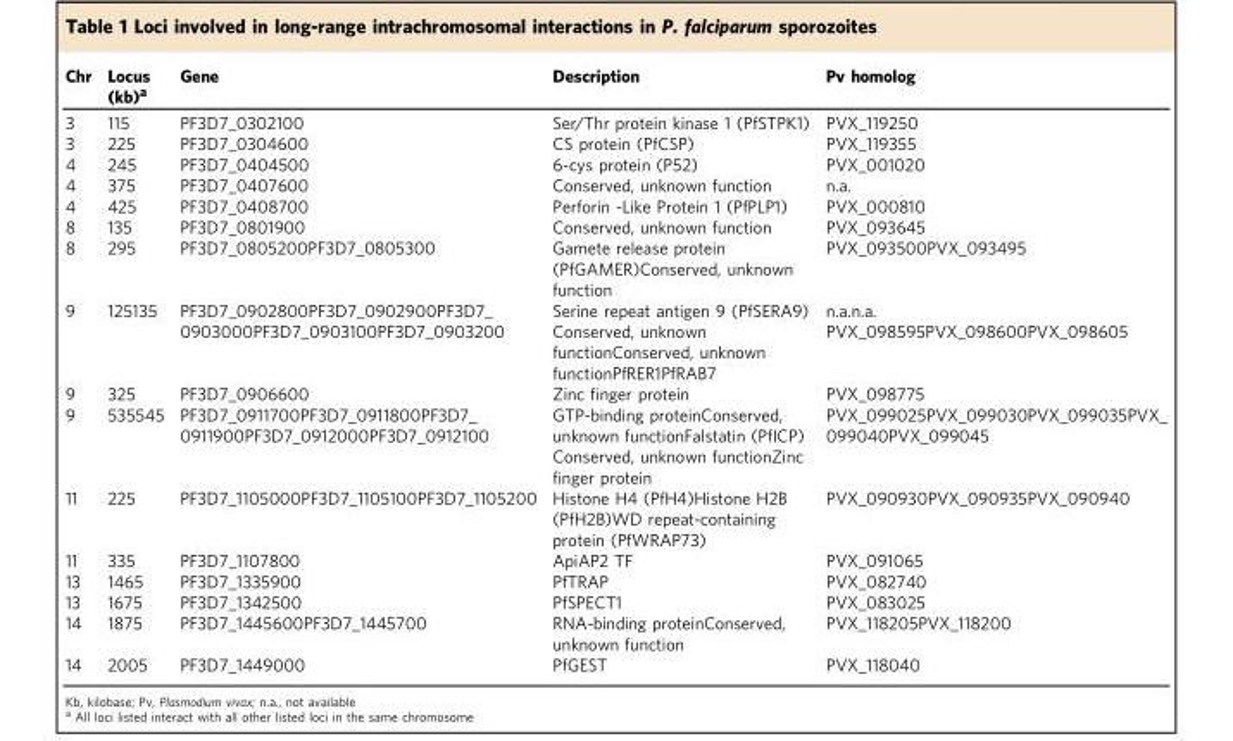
<table><thead><tr><td>Chr</td><td>Locus (kb)<sup>a</sup></td><td>Gene</td><td>Description</td><td>Pv homolog</td></tr></thead><tbody><tr><td>3</td><td>115</td><td>PF3D7_0302100</td><td>Ser/Thr protein kinase 1 (PfSTPK1)</td><td>PVX_119250</td></tr><tr><td>3</td><td>225</td><td>PF3D7_0304600</td><td>CS protein (PfCSP)</td><td>PVX_119355</td></tr><tr><td>4</td><td>245</td><td>PF3D7_0404500</td><td>6-cys protein (P52)</td><td>PVX_001020</td></tr><tr><td>4</td><td>375</td><td>PF3D7_0407600</td><td>Conserved, unknown function</td><td>n.a.</td></tr><tr><td>4</td><td>425</td><td>PF3D7_0408700</td><td>Perforin -Like Protein 1 (PfPLP1)</td><td>PVX_000810</td></tr><tr><td>8</td><td>135</td><td>PF3D7_0801900</td><td>Conserved, unknown function</td><td>PVX_093645</td></tr><tr><td>8</td><td>295</td><td>PF3D7_0805200PF3D7_0805300</td><td>Gamete release protein (PfGAMER)Conserved, unknown function</td><td>PVX_093500PVX_093495</td></tr><tr><td>9</td><td>125135</td><td>PF3D7_0902800PF3D7_0902900PF3D7_ 0903000PF3D7_0903100PF3D7_0903200</td><td>Serine repeat antigen 9 (PfSERA9) Conserved, unknown functionConserved, unknown functionPfRER1PfRAB7</td><td>n.a.n.a. PVX_098595PVX_098600PVX_098605</td></tr><tr><td>9</td><td>325</td><td>PF3D7_0906600</td><td>Zinc finger protein</td><td>PVX_098775</td></tr><tr><td>9</td><td>535545</td><td>PF3D7_0911700PF3D7_0911800PF3D7_ 0911900PF3D7_0912000PF3D7_0912100</td><td>GTP-binding proteinConserved, unknown functionFalstatin (PfICP) Conserved, unknown functionZinc finger protein</td><td>PVX_099025PVX_099030PVX_099035PVX_ 099040PVX_099045</td></tr><tr><td>11</td><td>225</td><td>PF3D7_1105000PF3D7_1105100PF3D7_1105200</td><td>Histone H4 (PfH4)Histone H2B (PfH2B)WD repeat-containing protein (PfWRAP73)</td><td>PVX_090930PVX_090935PVX_090940</td></tr><tr><td>11</td><td>335</td><td>PF3D7_1107800</td><td>ApiAP2 TF</td><td>PVX_091065</td></tr><tr><td>13</td><td>1465</td><td>PF3D7_1335900</td><td>PfTRAP</td><td>PVX_082740</td></tr><tr><td>13</td><td>1675</td><td>PF3D7_1342500</td><td>PfSPECT1</td><td>PVX_083025</td></tr><tr><td>14</td><td>1875</td><td>PF3D7_1445600PF3D7_1445700</td><td>RNA-binding proteinConserved, unknown function</td><td>PVX_118205PVX_118200</td></tr><tr><td>14</td><td>2005</td><td>PF3D7_1449000</td><td>PfGEST</td><td>PVX_118040</td></tr></tbody></table>